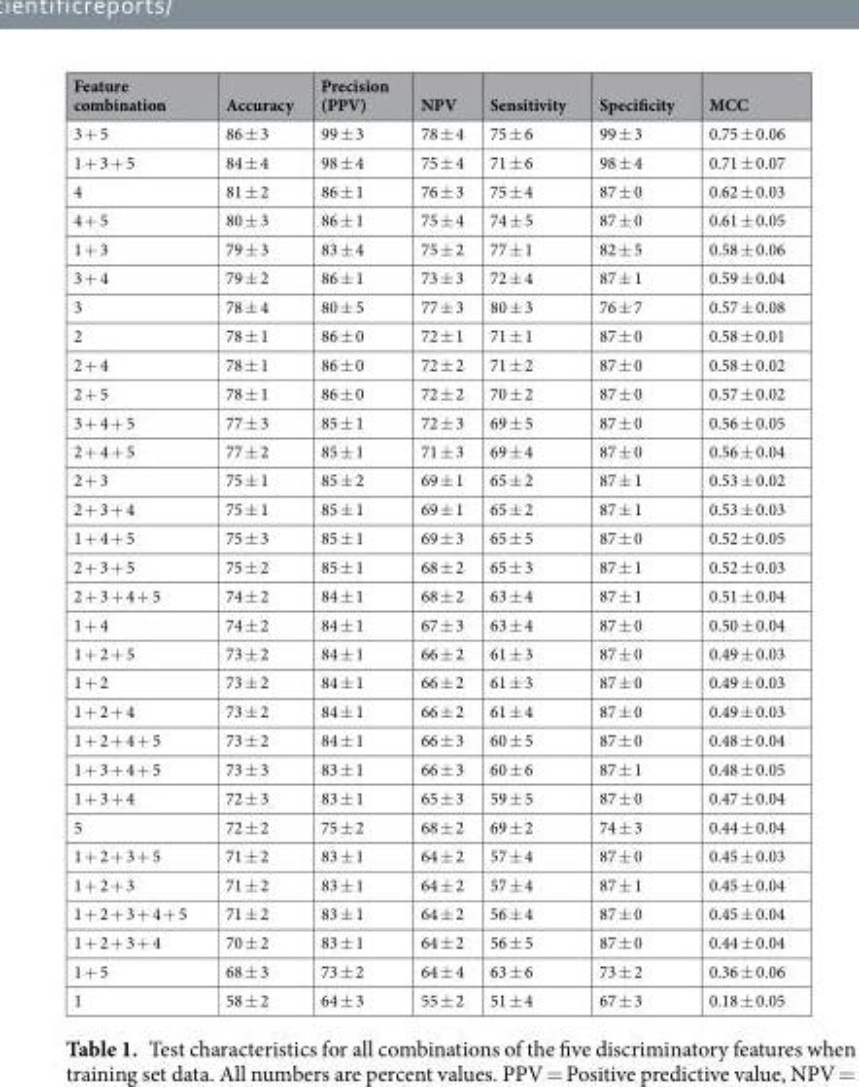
<table><thead><tr><td>Feature combination</td><td>Accuracy</td><td>Precision (PPV)</td><td>NPV</td><td>Sensitivity</td><td>Specificity</td><td>MCC</td></tr></thead><tbody><tr><td>3 + 5</td><td>86 ± 3</td><td>99 ± 3</td><td>78 ± 4</td><td>75 ± 6</td><td>99 ± 3</td><td>0.75 ± 0.06</td></tr><tr><td>1 + 3 + 5</td><td>84 ± 4</td><td>98 ± 4</td><td>75 ± 4</td><td>71 ± 6</td><td>98 ± 4</td><td>0.71 ± 0.07</td></tr><tr><td>4</td><td>81 ± 2</td><td>86 ± 1</td><td>76 ± 3</td><td>75 ± 4</td><td>87 ± 0</td><td>0.62 ± 0.03</td></tr><tr><td>4 + 5</td><td>80 ± 3</td><td>86 ± 1</td><td>75 ± 4</td><td>74 ± 5</td><td>87 ± 0</td><td>0.61 ± 0.05</td></tr><tr><td>1 + 3</td><td>79 ± 3</td><td>83 ± 4</td><td>75 ± 2</td><td>77 ± 1</td><td>82 ± 5</td><td>0.58 ± 0.06</td></tr><tr><td>3 + 4</td><td>79 ± 2</td><td>86 ± 1</td><td>73 ± 3</td><td>72 ± 4</td><td>87 ± 1</td><td>0.59 ± 0.04</td></tr><tr><td>3</td><td>78 ± 4</td><td>80 ± 5</td><td>77 ± 3</td><td>80 ± 3</td><td>76 ± 7</td><td>0.57 ± 0.08</td></tr><tr><td>2</td><td>78 ± 1</td><td>86 ± 0</td><td>72 ± 1</td><td>71 ± 1</td><td>87 ± 0</td><td>0.58 ± 0.01</td></tr><tr><td>2 + 4</td><td>78 ± 1</td><td>86 ± 0</td><td>72 ± 2</td><td>71 ± 2</td><td>87 ± 0</td><td>0.58 ± 0.02</td></tr><tr><td>2 + 5</td><td>78 ± 1</td><td>86 ± 0</td><td>72 ± 2</td><td>70 ± 2</td><td>87 ± 0</td><td>0.57 ± 0.02</td></tr><tr><td>3 + 4 + 5</td><td>77 ± 3</td><td>85 ± 1</td><td>72 ± 3</td><td>69 ± 5</td><td>87 ± 0</td><td>0.56 ± 0.05</td></tr><tr><td>2 + 4 + 5</td><td>77 ± 2</td><td>85 ± 1</td><td>71 ± 3</td><td>69 ± 4</td><td>87 ± 0</td><td>0.56 ± 0.04</td></tr><tr><td>2 + 3</td><td>75 ± 1</td><td>85 ± 2</td><td>69 ± 1</td><td>65 ± 2</td><td>87 ± 1</td><td>0.53 ± 0.02</td></tr><tr><td>2 + 3 + 4</td><td>75 ± 1</td><td>85 ± 1</td><td>69 ± 1</td><td>65 ± 2</td><td>87 ± 1</td><td>0.53 ± 0.03</td></tr><tr><td>1 + 4 + 5</td><td>75 ± 3</td><td>85 ± 1</td><td>69 ± 3</td><td>65 ± 5</td><td>87 ± 0</td><td>0.52 ± 0.05</td></tr><tr><td>2 + 3 + 5</td><td>75 ± 2</td><td>85 ± 1</td><td>68 ± 2</td><td>65 ± 3</td><td>87 ± 1</td><td>0.52 ± 0.03</td></tr><tr><td>2 + 3 + 4 + 5</td><td>74 ± 2</td><td>84 ± 1</td><td>68 ± 2</td><td>63 ± 4</td><td>87 ± 1</td><td>0.51 ± 0.04</td></tr><tr><td>1 + 4</td><td>74 ± 2</td><td>84 ± 1</td><td>67 ± 3</td><td>63 ± 4</td><td>87 ± 0</td><td>0.50 ± 0.04</td></tr><tr><td>1 + 2 + 5</td><td>73 ± 2</td><td>84 ± 1</td><td>66 ± 2</td><td>61 ± 3</td><td>87 ± 0</td><td>0.49 ± 0.03</td></tr><tr><td>1 + 2</td><td>73 ± 2</td><td>84 ± 1</td><td>66 ± 2</td><td>61 ± 3</td><td>87 ± 0</td><td>0.49 ± 0.03</td></tr><tr><td>1 + 2 + 4</td><td>73 ± 2</td><td>84 ± 1</td><td>66 ± 2</td><td>61 ± 4</td><td>87 ± 0</td><td>0.49 ± 0.03</td></tr><tr><td>1 + 2 + 4 + 5</td><td>73 ± 2</td><td>84 ± 1</td><td>66 ± 3</td><td>60 ± 5</td><td>87 ± 0</td><td>0.48 ± 0.04</td></tr><tr><td>1 + 3 + 4 + 5</td><td>73 ± 3</td><td>83 ± 1</td><td>66 ± 3</td><td>60 ± 6</td><td>87 ± 1</td><td>0.48 ± 0.05</td></tr><tr><td>1 + 3 + 4</td><td>72 ± 3</td><td>83 ± 1</td><td>65 ± 3</td><td>59 ± 5</td><td>87 ± 0</td><td>0.47 ± 0.04</td></tr><tr><td>5</td><td>72 ± 2</td><td>75 ± 2</td><td>68 ± 2</td><td>69 ± 2</td><td>74 ± 3</td><td>0.44 ± 0.04</td></tr><tr><td>1 + 2 + 3 + 5</td><td>71 ± 2</td><td>83 ± 1</td><td>64 ± 2</td><td>57 ± 4</td><td>87 ± 0</td><td>0.45 ± 0.03</td></tr><tr><td>1 + 2 + 3</td><td>71 ± 2</td><td>83 ± 1</td><td>64 ± 2</td><td>57 ± 4</td><td>87 ± 1</td><td>0.45 ± 0.04</td></tr><tr><td>1 + 2 + 3 + 4 + 5</td><td>71 ± 2</td><td>83 ± 1</td><td>64 ± 2</td><td>56 ± 4</td><td>87 ± 0</td><td>0.45 ± 0.04</td></tr><tr><td>1 + 2 + 3 + 4</td><td>70 ± 2</td><td>83 ± 1</td><td>64 ± 2</td><td>56 ± 5</td><td>87 ± 0</td><td>0.44 ± 0.04</td></tr><tr><td>1 + 5</td><td>68 ± 3</td><td>73 ± 2</td><td>64 ± 4</td><td>63 ± 6</td><td>73 ± 2</td><td>0.36 ± 0.06</td></tr><tr><td>1</td><td>58 ± 2</td><td>64 ± 3</td><td>55 ± 2</td><td>51 ± 4</td><td>67 ± 3</td><td>0.18 ± 0.05</td></tr></tbody></table>